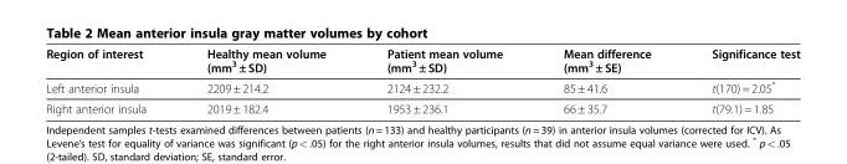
<table><thead><tr><td>Region of interest</td><td>Healthy mean volume (mm<sup>3</sup> ± SD)</td><td>Patient mean volume (mm<sup>3</sup> ± SD)</td><td>Mean difference (mm<sup>3</sup> ± SE)</td><td>Significance test</td></tr></thead><tbody><tr><td>Left anterior insula</td><td>2209 ± 214.2</td><td>2124 ± 232.2</td><td>85 ± 41.6</td><td>t(170) = 2.05*</td></tr><tr><td>Right anterior insula</td><td>2019 ± 182.4</td><td>1953 ± 236.1</td><td>66 ± 35.7</td><td>t(79.1) = 1.85</td></tr></tbody></table>